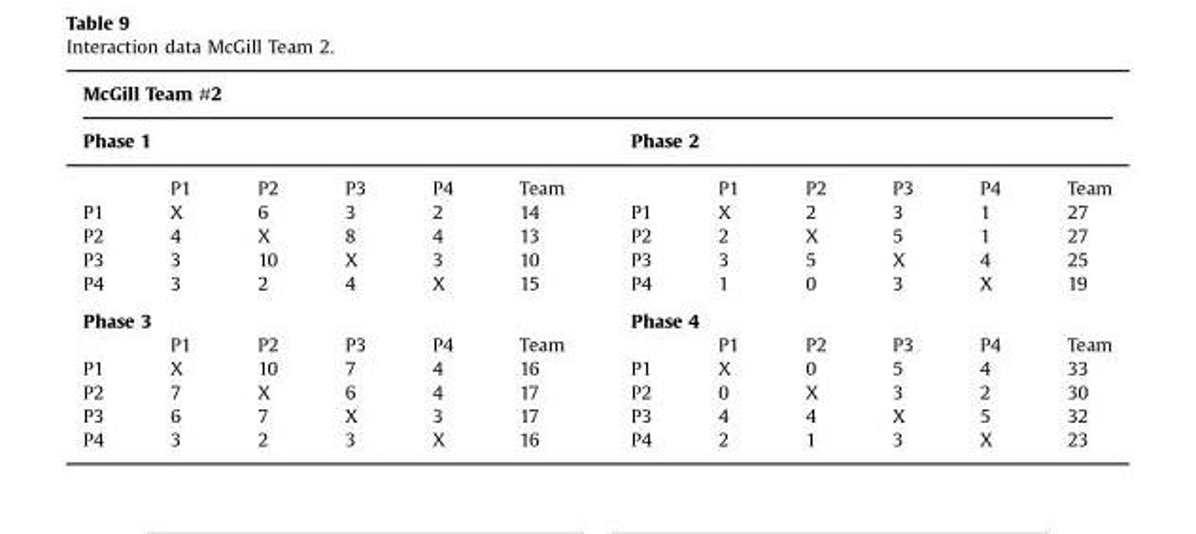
<table><thead><tr><td colspan="12">McGill Team #2</td></tr><tr><td colspan="6">Phase 1</td><td colspan="6">Phase 2</td></tr><tr><td></td><td>P1</td><td>P2</td><td>P3</td><td>P4</td><td>Team</td><td></td><td>P1</td><td>P2</td><td>P3</td><td>P4</td><td>Team</td></tr></thead><tbody><tr><td>P1</td><td>X</td><td>6</td><td>3</td><td>2</td><td>14</td><td>P1</td><td>X</td><td>2</td><td>3</td><td>1</td><td>27</td></tr><tr><td>P2</td><td>4</td><td>X</td><td>8</td><td>4</td><td>13</td><td>P2</td><td>2</td><td>X</td><td>5</td><td>1</td><td>27</td></tr><tr><td>P3</td><td>3</td><td>10</td><td>X</td><td>3</td><td>10</td><td>P3</td><td>3</td><td>5</td><td>X</td><td>4</td><td>25</td></tr><tr><td>P4</td><td>3</td><td>2</td><td>4</td><td>X</td><td>15</td><td>P4</td><td>1</td><td>0</td><td>3</td><td>X</td><td>19</td></tr><tr><td colspan="6">Phase 3</td><td colspan="6">Phase 4</td></tr><tr><td></td><td>P1</td><td>P2</td><td>P3</td><td>P4</td><td>Team</td><td></td><td>P1</td><td>P2</td><td>P3</td><td>P4</td><td>Team</td></tr><tr><td>P1</td><td>X</td><td>10</td><td>7</td><td>4</td><td>16</td><td>P1</td><td>X</td><td>0</td><td>5</td><td>4</td><td>33</td></tr><tr><td>P2</td><td>7</td><td>X</td><td>6</td><td>4</td><td>17</td><td>P2</td><td>0</td><td>X</td><td>3</td><td>2</td><td>30</td></tr><tr><td>P3</td><td>6</td><td>7</td><td>X</td><td>3</td><td>17</td><td>P3</td><td>4</td><td>4</td><td>X</td><td>5</td><td>32</td></tr><tr><td>P4</td><td>3</td><td>2</td><td>3</td><td>X</td><td>16</td><td>P4</td><td>2</td><td>1</td><td>3</td><td>X</td><td>23</td></tr></tbody></table>